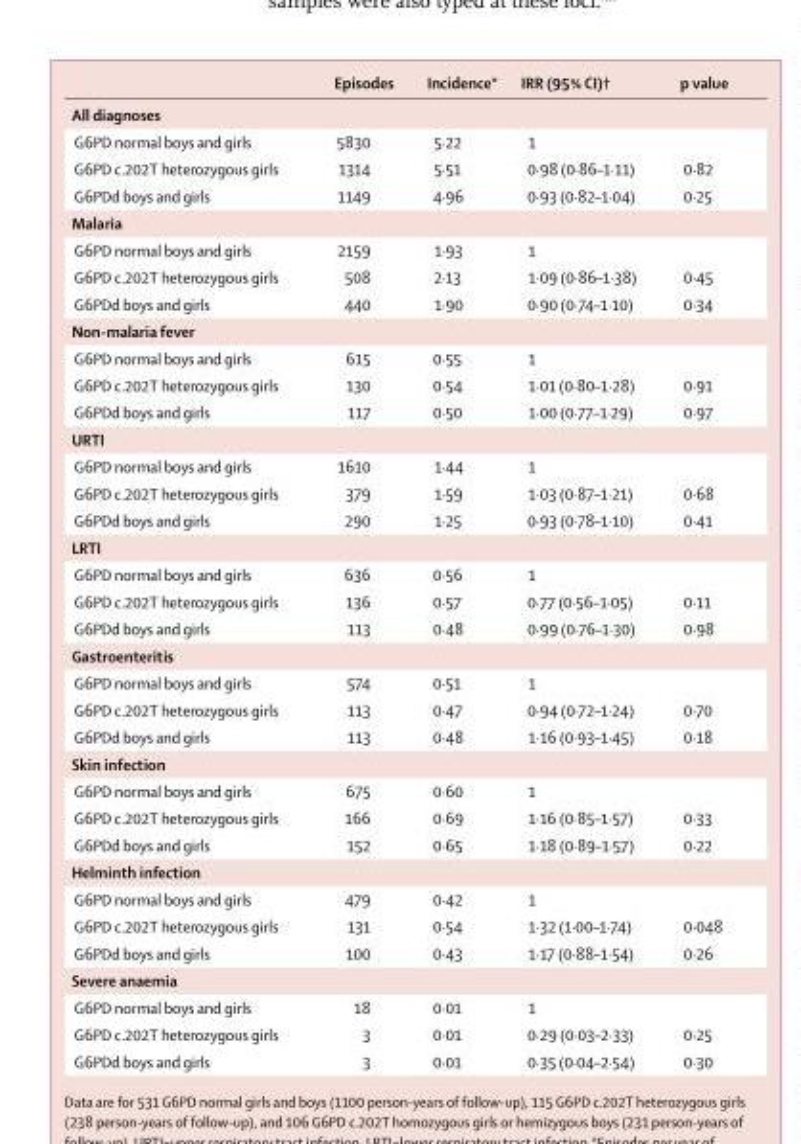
<table><thead><tr><td></td><td>Episodes</td><td>Incidence*</td><td>IRR (95% CI)†</td><td>p value</td></tr></thead><tbody><tr><td colspan="5">All diagnoses</td></tr><tr><td>G6PD normal boys and girls</td><td>5830</td><td>5·22</td><td>1</td><td></td></tr><tr><td>G6PD c.202T heterozygous girls</td><td>1314</td><td>5·51</td><td>0·98 (0·86–1·11)</td><td>0·82</td></tr><tr><td>G6PDd boys and girls</td><td>1149</td><td>4·96</td><td>0·93 (0·82–1·04)</td><td>0·25</td></tr><tr><td colspan="5">Malaria</td></tr><tr><td>G6PD normal boys and girls</td><td>2159</td><td>1·93</td><td>1</td><td></td></tr><tr><td>G6PD c.202T heterozygous girls</td><td>508</td><td>2·13</td><td>1·09 (0·86–1·38)</td><td>0·45</td></tr><tr><td>G6PDd boys and girls</td><td>440</td><td>1·90</td><td>0·90 (0·74–1·10)</td><td>0·34</td></tr><tr><td colspan="5">Non-malaria fever</td></tr><tr><td>G6PD normal boys and girls</td><td>615</td><td>0·55</td><td>1</td><td></td></tr><tr><td>G6PD c.202T heterozygous girls</td><td>130</td><td>0·54</td><td>1·01 (0·80–1·28)</td><td>0·91</td></tr><tr><td>G6PDd boys and girls</td><td>117</td><td>0·50</td><td>1·00 (0·77–1·29)</td><td>0·97</td></tr><tr><td colspan="5">URTI</td></tr><tr><td>G6PD normal boys and girls</td><td>1610</td><td>1·44</td><td>1</td><td></td></tr><tr><td>G6PD c.202T heterozygous girls</td><td>379</td><td>1·59</td><td>1·03 (0·87–1·21)</td><td>0·68</td></tr><tr><td>G6PDd boys and girls</td><td>290</td><td>1·25</td><td>0·93 (0·78–1·10)</td><td>0·41</td></tr><tr><td colspan="5">LRTI</td></tr><tr><td>G6PD normal boys and girls</td><td>636</td><td>0·56</td><td>1</td><td></td></tr><tr><td>G6PD c.202T heterozygous girls</td><td>136</td><td>0·57</td><td>0·77 (0·56–1·05)</td><td>0·11</td></tr><tr><td>G6PDd boys and girls</td><td>113</td><td>0·48</td><td>0·99 (0·76–1·30)</td><td>0·98</td></tr><tr><td colspan="5">Gastroenteritis</td></tr><tr><td>G6PD normal boys and girls</td><td>574</td><td>0·51</td><td>1</td><td></td></tr><tr><td>G6PD c.202T heterozygous girls</td><td>113</td><td>0·47</td><td>0·94 (0·72–1·24)</td><td>0·70</td></tr><tr><td>G6PDd boys and girls</td><td>113</td><td>0·48</td><td>1·16 (0·93–1·45)</td><td>0·18</td></tr><tr><td colspan="5">Skin infection</td></tr><tr><td>G6PD normal boys and girls</td><td>675</td><td>0·60</td><td>1</td><td></td></tr><tr><td>G6PD c.202T heterozygous girls</td><td>166</td><td>0·69</td><td>1·16 (0·85–1·57)</td><td>0·33</td></tr><tr><td>G6PDd boys and girls</td><td>152</td><td>0·65</td><td>1·18 (0·89–1·57)</td><td>0·22</td></tr><tr><td colspan="5">Helminth infection</td></tr><tr><td>G6PD normal boys and girls</td><td>479</td><td>0·42</td><td>1</td><td></td></tr><tr><td>G6PD c.202T heterozygous girls</td><td>131</td><td>0·54</td><td>1·32 (1·00–1·74)</td><td>0·048</td></tr><tr><td>G6PDd boys and girls</td><td>100</td><td>0·43</td><td>1·17 (0·88–1·54)</td><td>0·26</td></tr><tr><td colspan="5">Severe anaemia</td></tr><tr><td>G6PD normal boys and girls</td><td>18</td><td>0·01</td><td>1</td><td></td></tr><tr><td>G6PD c.202T heterozygous girls</td><td>3</td><td>0·01</td><td>0·29 (0·03–2·33)</td><td>0·25</td></tr><tr><td>G6PDd boys and girls</td><td>3</td><td>0·01</td><td>0·35 (0·04–2·54)</td><td>0·30</td></tr></tbody></table>